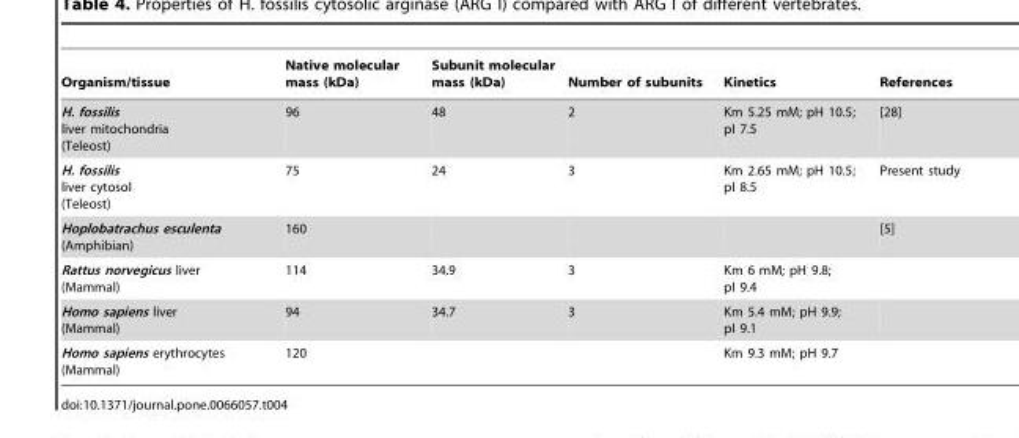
<table><thead><tr><td>Organism/tissue</td><td>Native molecular mass (kDa)</td><td>Subunit molecular mass (kDa)</td><td>Number of subunits</td><td>Kinetics</td><td>References</td></tr></thead><tbody><tr><td>H. fossilis liver mitochondria (Teleost)</td><td>96</td><td>48</td><td>2</td><td>Km 5.25 mM; pH 10.5; pI 7.5</td><td>[28]</td></tr><tr><td>H. fossilis liver cytosol (Teleost)</td><td>75</td><td>24</td><td>3</td><td>Km 2.65 mM; pH 10.5; pI 8.5</td><td>Present study</td></tr><tr><td>Hoplobatrachus esculenta (Amphibian)</td><td>160</td><td></td><td></td><td></td><td>[5]</td></tr><tr><td>Rattus norvegicus liver (Mammal)</td><td>114</td><td>34.9</td><td>3</td><td>Km 6 mM; pH 9.8; pI 9.4</td><td></td></tr><tr><td>Homo sapiens liver (Mammal)</td><td>94</td><td>34.7</td><td>3</td><td>Km 5.4 mM; pH 9.9; pI 9.1</td><td></td></tr><tr><td>Homo sapiens erythrocytes (Mammal)</td><td>120</td><td></td><td></td><td>Km 9.3 mM; pH 9.7</td><td></td></tr></tbody></table>